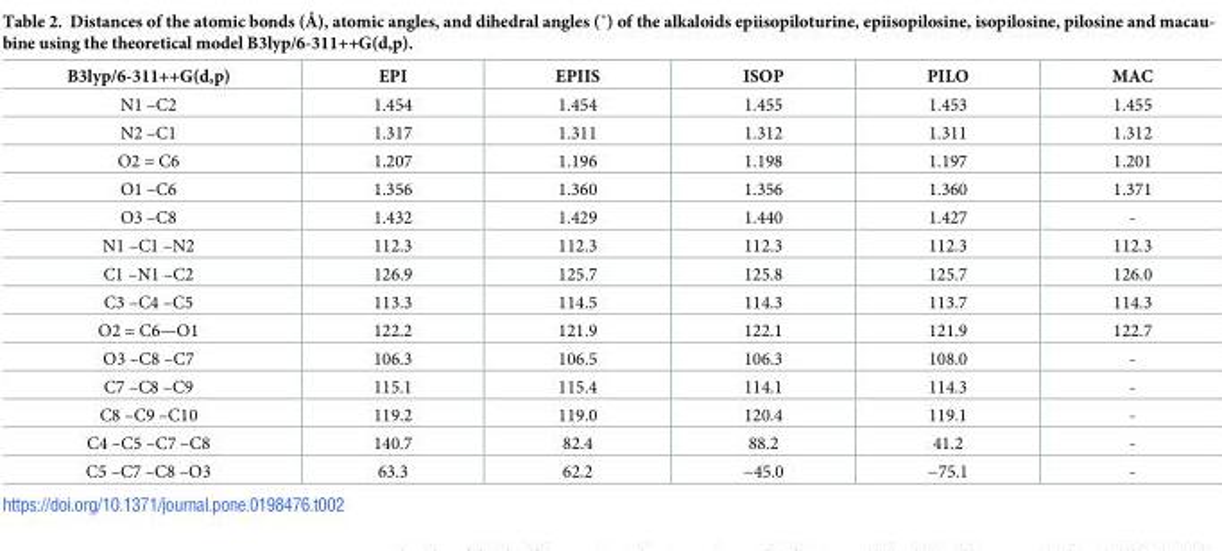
<table><thead><tr><td>B3lyp/6-311++G(d,p)</td><td>EPI</td><td>EPIIS</td><td>ISOP</td><td>PILO</td><td>MAC</td></tr></thead><tbody><tr><td>N1 –C2</td><td>1.454</td><td>1.454</td><td>1.455</td><td>1.453</td><td>1.455</td></tr><tr><td>N2 –C1</td><td>1.317</td><td>1.311</td><td>1.312</td><td>1.311</td><td>1.312</td></tr><tr><td>O2 = C6</td><td>1.207</td><td>1.196</td><td>1.198</td><td>1.197</td><td>1.201</td></tr><tr><td>O1 –C6</td><td>1.356</td><td>1.360</td><td>1.356</td><td>1.360</td><td>1.371</td></tr><tr><td>O3 –C8</td><td>1.432</td><td>1.429</td><td>1.440</td><td>1.427</td><td>-</td></tr><tr><td>N1 –C1 –N2</td><td>112.3</td><td>112.3</td><td>112.3</td><td>112.3</td><td>112.3</td></tr><tr><td>C1 –N1 –C2</td><td>126.9</td><td>125.7</td><td>125.8</td><td>125.7</td><td>126.0</td></tr><tr><td>C3 –C4 –C5</td><td>113.3</td><td>114.5</td><td>114.3</td><td>113.7</td><td>114.3</td></tr><tr><td>O2 = C6—O1</td><td>122.2</td><td>121.9</td><td>122.1</td><td>121.9</td><td>122.7</td></tr><tr><td>O3 –C8 –C7</td><td>106.3</td><td>106.5</td><td>106.3</td><td>108.0</td><td>-</td></tr><tr><td>C7 –C8 –C9</td><td>115.1</td><td>115.4</td><td>114.1</td><td>114.3</td><td>-</td></tr><tr><td>C8 –C9 –C10</td><td>119.2</td><td>119.0</td><td>120.4</td><td>119.1</td><td>-</td></tr><tr><td>C4 –C5 –C7 –C8</td><td>140.7</td><td>82.4</td><td>88.2</td><td>41.2</td><td>-</td></tr><tr><td>C5 –C7 –C8 –O3</td><td>63.3</td><td>62.2</td><td>−45.0</td><td>−75.1</td><td>-</td></tr></tbody></table>